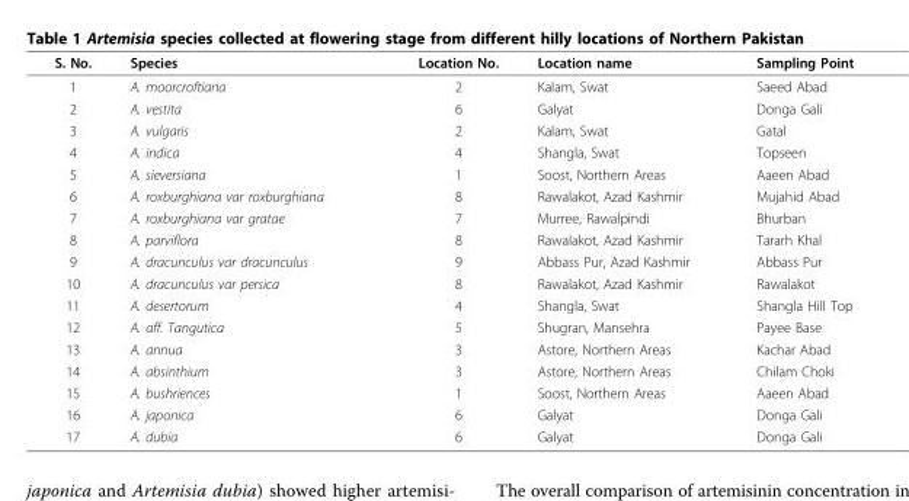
<table><thead><tr><td>S. No.</td><td>Species</td><td>Location No.</td><td>Location name</td><td>Sampling Point</td></tr></thead><tbody><tr><td>1</td><td>A. moorcroftiana</td><td>2</td><td>Kalam, Swat</td><td>Saeed Abad</td></tr><tr><td>2</td><td>A. vestita</td><td>6</td><td>Galyat</td><td>Donga Gali</td></tr><tr><td>3</td><td>A. vulgaris</td><td>2</td><td>Kalam, Swat</td><td>Gatal</td></tr><tr><td>4</td><td>A. indica</td><td>4</td><td>Shangla, Swat</td><td>Topseen</td></tr><tr><td>5</td><td>A. sieversiana</td><td>1</td><td>Soost, Northern Areas</td><td>Aaeen Abad</td></tr><tr><td>6</td><td>A. roxburghiana var roxburghiana</td><td>8</td><td>Rawalakot, Azad Kashmir</td><td>Mujahid Abad</td></tr><tr><td>7</td><td>A. roxburghiana var gratae</td><td>7</td><td>Murree, Rawalpindi</td><td>Bhurban</td></tr><tr><td>8</td><td>A. parviflora</td><td>8</td><td>Rawalakot, Azad Kashmir</td><td>Tararh Khal</td></tr><tr><td>9</td><td>A. dracunculus var dracunculus</td><td>9</td><td>Abbass Pur, Azad Kashmir</td><td>Abbass Pur</td></tr><tr><td>10</td><td>A. dracunculus var persica</td><td>8</td><td>Rawalakot, Azad Kashmir</td><td>Rawalakot</td></tr><tr><td>11</td><td>A. desertorum</td><td>4</td><td>Shangla, Swat</td><td>Shangla Hill Top</td></tr><tr><td>12</td><td>A. aff. Tangutica</td><td>5</td><td>Shugran, Mansehra</td><td>Payee Base</td></tr><tr><td>13</td><td>A. annua</td><td>3</td><td>Astore, Northern Areas</td><td>Kachar Abad</td></tr><tr><td>14</td><td>A. absinthium</td><td>3</td><td>Astore, Northern Areas</td><td>Chilam Choki</td></tr><tr><td>15</td><td>A. bushriences</td><td>1</td><td>Soost, Northern Areas</td><td>Aaeen Abad</td></tr><tr><td>16</td><td>A. japonica</td><td>6</td><td>Galyat</td><td>Donga Gali</td></tr><tr><td>17</td><td>A. dubia</td><td>6</td><td>Galyat</td><td>Donga Gali</td></tr></tbody></table>